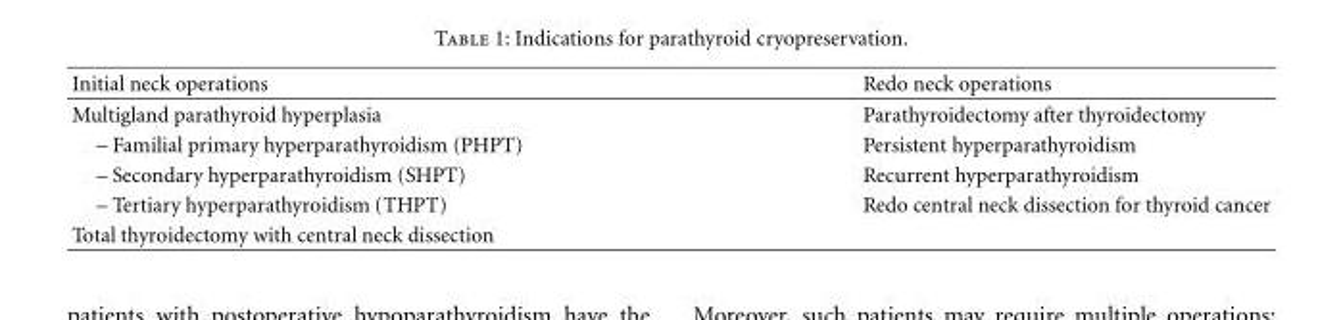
<table><thead><tr><td>Initial neck operations</td><td>Redo neck operations</td></tr></thead><tbody><tr><td>Multigland parathyroid hyperplasia</td><td>Parathyroidectomy after thyroidectomy</td></tr><tr><td>– Familial primary hyperparathyroidism (PHPT)</td><td>Persistent hyperparathyroidism</td></tr><tr><td>– Secondary hyperparathyroidism (SHPT)</td><td>Recurrent hyperparathyroidism</td></tr><tr><td>– Tertiary hyperparathyroidism (THPT)</td><td>Redo central neck dissection for thyroid cancer</td></tr><tr><td>Total thyroidectomy with central neck dissection</td><td></td></tr></tbody></table>